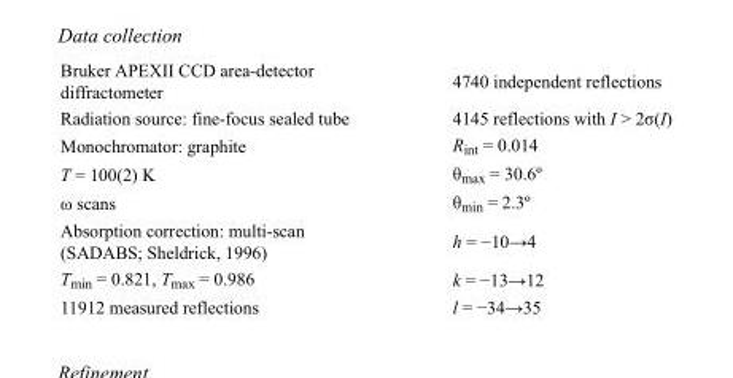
<table><tbody><tr><td>Bruker APEXII CCD area-detector diffractometer</td><td>4740 independent reflections</td></tr><tr><td>Radiation source: fine-focus sealed tube</td><td>4145 reflections with I &gt; 2σ(I)</td></tr><tr><td>Monochromator: graphite</td><td>R<sub>int</sub> = 0.014</td></tr><tr><td>T = 100(2) K</td><td>θ<sub>max</sub> = 30.6º</td></tr><tr><td>ω scans</td><td>θ<sub>min</sub> = 2.3º</td></tr><tr><td>Absorption correction: multi-scan (SADABS; Sheldrick, 1996)</td><td>h = −10→4</td></tr><tr><td>T<sub>min</sub> = 0.821, T<sub>max</sub> = 0.986</td><td>k = −13→12</td></tr><tr><td>11912 measured reflections</td><td>l = −34→35</td></tr></tbody></table>